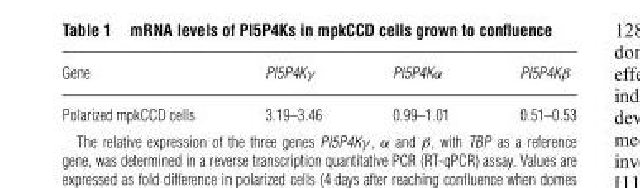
<table><thead><tr><td>Gene</td><td>PI5P4Kγ</td><td>PI5P4Kα</td><td>PI5P4Kβ</td></tr></thead><tbody><tr><td>Polarized mpkCCD cells</td><td>3.19–3.46</td><td>0.99–1.01</td><td>0.51–0.53</td></tr></tbody></table>